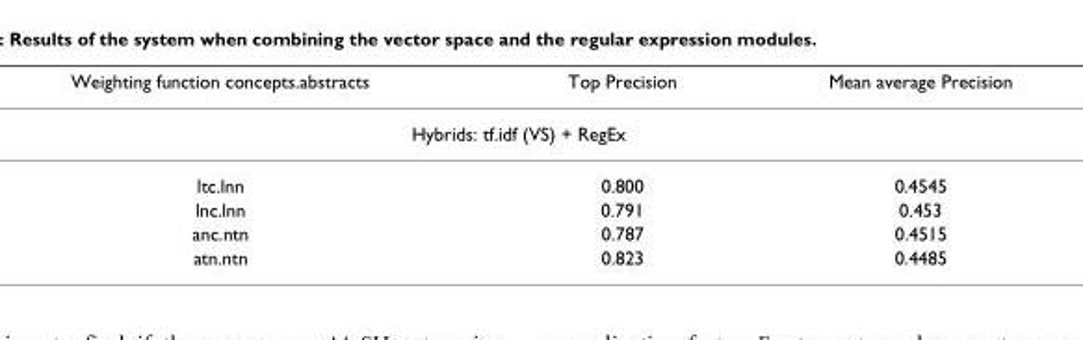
<table><thead><tr><td>Weighting function concepts.abstracts</td><td>Top Precision</td><td>Mean average Precision</td></tr></thead><tbody><tr><td colspan="3">Hybrids: tf.idf (VS) + RegEx</td></tr><tr><td>ltc.lnn</td><td>0.800</td><td>0.4545</td></tr><tr><td>lnc.lnn</td><td>0.791</td><td>0.453</td></tr><tr><td>anc.ntn</td><td>0.787</td><td>0.4515</td></tr><tr><td>atn.ntn</td><td>0.823</td><td>0.4485</td></tr></tbody></table>